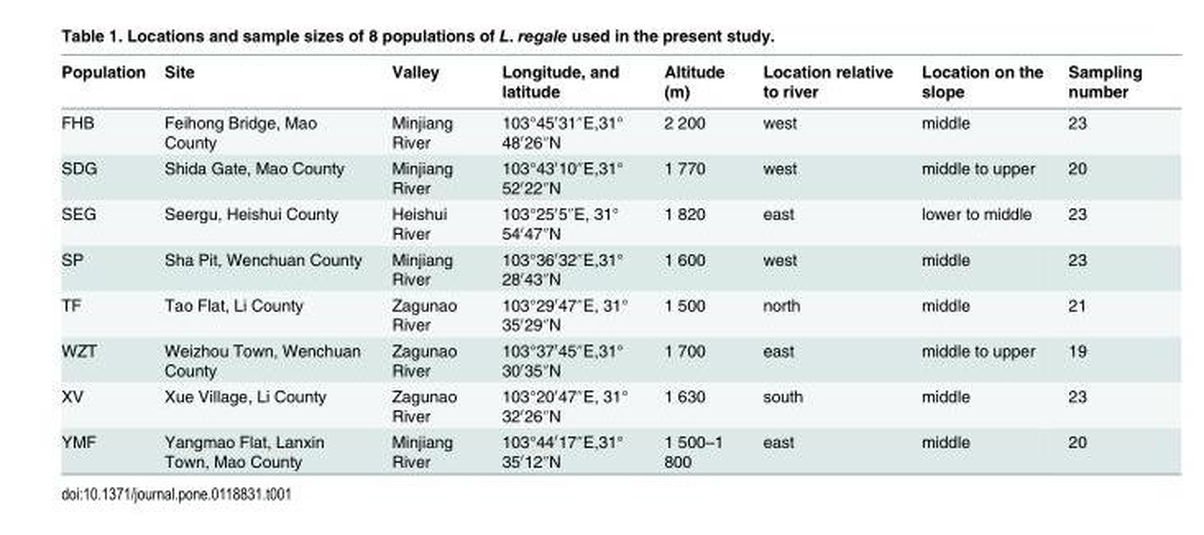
<table><thead><tr><td>Population</td><td>Site</td><td>Valley</td><td>Longitude, and latitude</td><td>Altitude (m)</td><td>Location relative to river</td><td>Location on the slope</td><td>Sampling number</td></tr></thead><tbody><tr><td>FHB</td><td>Feihong Bridge, Mao County</td><td>Minjiang River</td><td>103°45′31″E,31° 48′26″N</td><td>2 200</td><td>west</td><td>middle</td><td>23</td></tr><tr><td>SDG</td><td>Shida Gate, Mao County</td><td>Minjiang River</td><td>103°43′10″E,31° 52′22″N</td><td>1 770</td><td>west</td><td>middle to upper</td><td>20</td></tr><tr><td>SEG</td><td>Seergu, Heishui County</td><td>Heishui River</td><td>103°25′5″E, 31° 54′47″N</td><td>1 820</td><td>east</td><td>lower to middle</td><td>23</td></tr><tr><td>SP</td><td>Sha Pit, Wenchuan County</td><td>Minjiang River</td><td>103°36′32″E,31° 28′43″N</td><td>1 600</td><td>west</td><td>middle</td><td>23</td></tr><tr><td>TF</td><td>Tao Flat, Li County</td><td>Zagunao River</td><td>103°29′47″E, 31° 35′29″N</td><td>1 500</td><td>north</td><td>middle</td><td>21</td></tr><tr><td>WZT</td><td>Weizhou Town, Wenchuan County</td><td>Zagunao River</td><td>103°37′45″E,31° 30′35″N</td><td>1 700</td><td>east</td><td>middle to upper</td><td>19</td></tr><tr><td>XV</td><td>Xue Village, Li County</td><td>Zagunao River</td><td>103°20′47″E, 31° 32′26″N</td><td>1 630</td><td>south</td><td>middle</td><td>23</td></tr><tr><td>YMF</td><td>Yangmao Flat, Lanxin Town, Mao County</td><td>Minjiang River</td><td>103°44′17″E,31° 35′12″N</td><td>1 500–1 800</td><td>east</td><td>middle</td><td>20</td></tr></tbody></table>